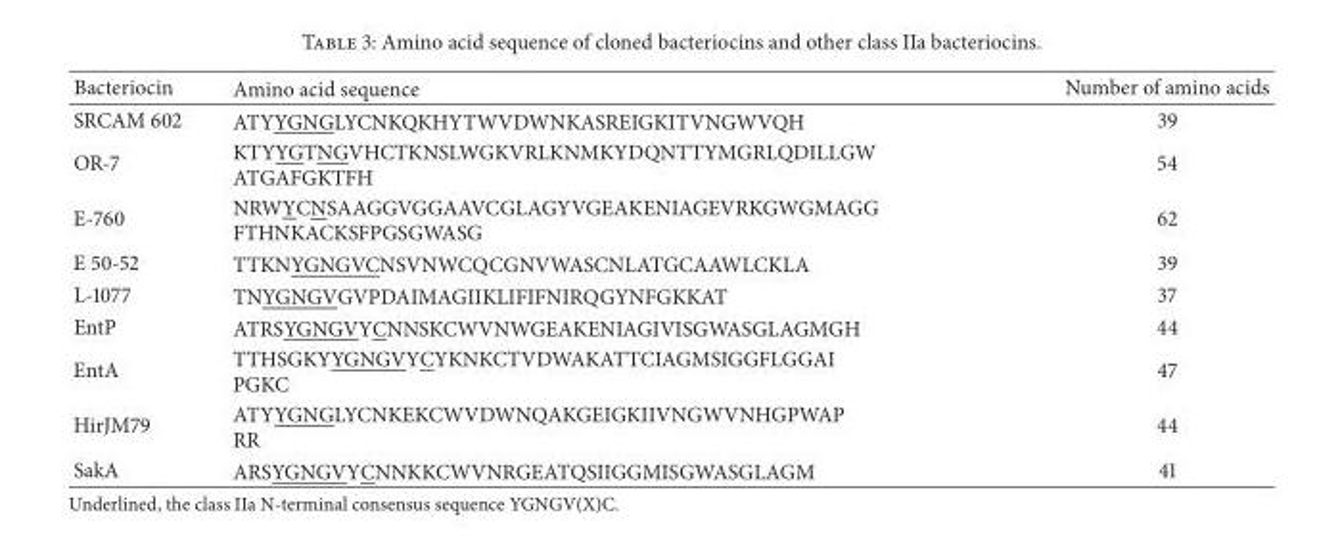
<table><thead><tr><td>Bacteriocin</td><td>Amino acid sequence</td><td>Number of amino acids</td></tr></thead><tbody><tr><td>SRCAM 602</td><td>ATYYGNGLYCNKQKHYTWVDWNKASREIGKITVNGWVQH</td><td>39</td></tr><tr><td>OR-7</td><td>KTYYGTNGVHCTKNSLWGKVRLKNMKYDQNTTYMGRLQDILLGW ATGAFGKTFH</td><td>54</td></tr><tr><td>E-760</td><td>NRWYCNSAAGGVGGAAVCGLAGYVGEAKENIAGEVRKGWGMAGG FTHNKACKSFPGSGWASG</td><td>62</td></tr><tr><td>E 50-52</td><td>TTKNYGNGVCNSVNWCQCGNVWASCNLATGCAAWLCKLA</td><td>39</td></tr><tr><td>L-1077</td><td>TNYGNGVGVPDAIMAGIIKLIFIFNIRQGYNFGKKAT</td><td>37</td></tr><tr><td>EntP</td><td>ATRSYGNGVYCNNSKCWVNWGEAKENIAGIVISGWASGLAGMGH</td><td>44</td></tr><tr><td>EntA</td><td>TTHSGKYYGNGVYCYKNKCTVDWAKATTCIAGMSIGGFLGGAI PGKC</td><td>47</td></tr><tr><td>HirJM79</td><td>ATYYGNGLYCNKEKCWVDWNQAKGEIGKIIVNGWVNHGPWAP RR</td><td>44</td></tr><tr><td>SakA</td><td>ARSYGNGVYCNNKKCWVNRGEATQSIIGGMISGWASGLAGM</td><td>41</td></tr></tbody></table>